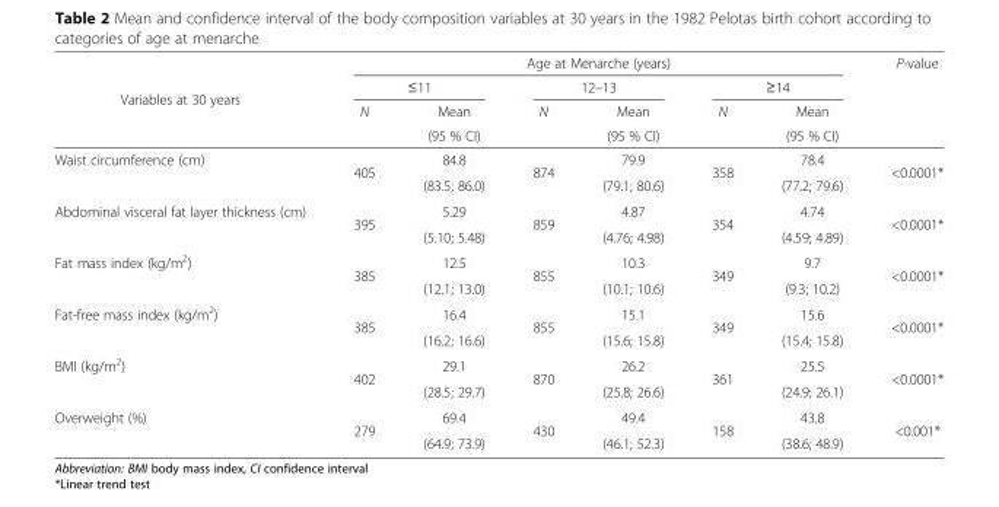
<table><thead><tr><td rowspan="4">Variables at 30 years</td><td colspan="6">Age at Menarche (years)</td><td rowspan="4">P-value</td></tr><tr><td colspan="2">≤11</td><td colspan="2">12–13</td><td colspan="2">≥14</td></tr><tr><td rowspan="2">N</td><td rowspan="2">Mean (95 % CI)</td><td rowspan="2">N</td><td rowspan="2">Mean (95 % CI)</td><td rowspan="2">N</td><td rowspan="2">Mean (95 % CI)</td></tr><tr></tr></thead><tbody><tr><td rowspan="2">Waist circumference (cm)</td><td rowspan="2">405</td><td>84.8</td><td rowspan="2">874</td><td>79.9</td><td rowspan="2">358</td><td>78.4</td><td rowspan="2">&lt;0.0001*</td></tr><tr><td>(83.5; 86.0)</td><td>(79.1; 80.6)</td><td>(77.2; 79.6)</td></tr><tr><td rowspan="2">Abdominal visceral fat layer thickness (cm)</td><td rowspan="2">395</td><td>5.29</td><td rowspan="2">859</td><td>4.87</td><td rowspan="2">354</td><td>4.74</td><td rowspan="2">&lt;0.0001*</td></tr><tr><td>(5.10; 5.48)</td><td>(4.76; 4.98)</td><td>(4.59; 4.89)</td></tr><tr><td rowspan="2">Fat mass index (kg/m<sup>2</sup>)</td><td rowspan="2">385</td><td>12.5</td><td rowspan="2">855</td><td>10.3</td><td rowspan="2">349</td><td>9.7</td><td rowspan="2">&lt;0.0001*</td></tr><tr><td>(12.1; 13.0)</td><td>(10.1; 10.6)</td><td>(9.3; 10.2)</td></tr><tr><td rowspan="2">Fat-free mass index (kg/m<sup>2</sup>)</td><td rowspan="2">385</td><td>16.4</td><td rowspan="2">855</td><td>15.1</td><td rowspan="2">349</td><td>15.6</td><td rowspan="2">&lt;0.0001*</td></tr><tr><td>(16.2; 16.6)</td><td>(15.6; 15.8)</td><td>(15.4; 15.8)</td></tr><tr><td rowspan="2">BMI (kg/m<sup>2</sup>)</td><td rowspan="2">402</td><td>29.1</td><td rowspan="2">870</td><td>26.2</td><td rowspan="2">361</td><td>25.5</td><td rowspan="2">&lt;0.0001*</td></tr><tr><td>(28.5; 29.7)</td><td>(25.8; 26.6)</td><td>(24.9; 26.1)</td></tr><tr><td rowspan="2">Overweight (%)</td><td rowspan="2">279</td><td>69.4</td><td rowspan="2">430</td><td>49.4</td><td rowspan="2">158</td><td>43.8</td><td rowspan="2">&lt;0.001*</td></tr><tr><td>(64.9; 73.9)</td><td>(46.1; 52.3)</td><td>(38.6; 48.9)</td></tr></tbody></table>